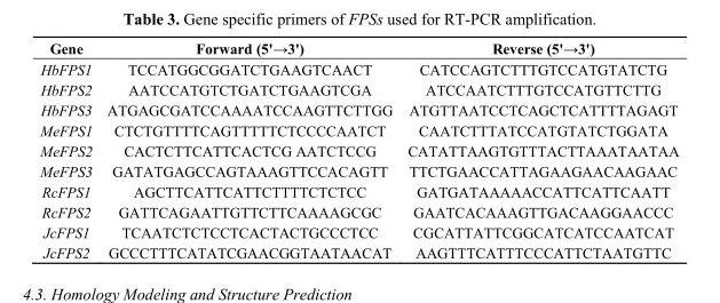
<table><thead><tr><td>Gene</td><td>Forward (5&#x27;→3&#x27;)</td><td>Reverse (5&#x27;→3&#x27;)</td></tr></thead><tbody><tr><td>HbFPS1</td><td>TCCATGGCGGATCTGAAGTCAACT</td><td>CATCCAGTCTTTGTCCATGTATCTG</td></tr><tr><td>HbFPS2</td><td>AATCCATGTCTGATCTGAAGTCGA</td><td>ATCCAATCTTTGTCCATGTTCTTG</td></tr><tr><td>HbFPS3</td><td>ATGAGCGATCCAAAATCCAAGTTCTTGG</td><td>ATGTTAATCCTCAGCTCATTTTAGAGT</td></tr><tr><td>MeFPS1</td><td>CTCTGTTTTCAGTTTTTCTCCCCAATCT</td><td>CAATCTTTATCCATGTATCTGGATA</td></tr><tr><td>MeFPS2</td><td>CACTCTTCATTCACTCG AATCTCCG</td><td>CATATTAAGTGTTTACTTAAATAATAA</td></tr><tr><td>MeFPS3</td><td>GATATGAGCCAGTAAAGTTCCACAGTT</td><td>TTCTGAACCATTAGAAGAACAAGAAC</td></tr><tr><td>RcFPS1</td><td>AGCTTCATTCATTCTTTTCTCTCC</td><td>GATGATAAAAACCATTCATTCAATT</td></tr><tr><td>RcFPS2</td><td>GATTCAGAATTGTTCTTCAAAAGCGC</td><td>GAATCACAAAGTTGACAAGGAACCC</td></tr><tr><td>JcFPS1</td><td>TCAATCTCTCCTCACTACTGCCCTCC</td><td>CGCATTATTCGGCATCATCCAATCAT</td></tr><tr><td>JcFPS2</td><td>GCCCTTTCATATCGAACGGTAATAACAT</td><td>AAGTTTCATTTCCCATTCTAATGTTC</td></tr></tbody></table>